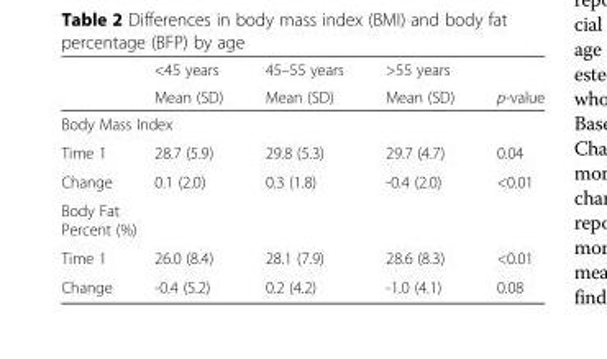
<table><thead><tr><td rowspan="2"></td><td rowspan="2">&lt;45 years Mean (SD)</td><td rowspan="2">45–55 years Mean (SD)</td><td rowspan="2">&gt;55 years Mean (SD)</td><td rowspan="2">p-value</td></tr><tr></tr></thead><tbody><tr><td colspan="5">Body Mass Index</td></tr><tr><td>Time 1</td><td>28.7 (5.9)</td><td>29.8 (5.3)</td><td>29.7 (4.7)</td><td>0.04</td></tr><tr><td>Change</td><td>0.1 (2.0)</td><td>0.3 (1.8)</td><td>-0.4 (2.0)</td><td>&lt;0.01</td></tr><tr><td colspan="5">Body Fat Percent (%)</td></tr><tr><td>Time 1</td><td>26.0 (8.4)</td><td>28.1 (7.9)</td><td>28.6 (8.3)</td><td>&lt;0.01</td></tr><tr><td>Change</td><td>-0.4 (5.2)</td><td>0.2 (4.2)</td><td>-1.0 (4.1)</td><td>0.08</td></tr></tbody></table>